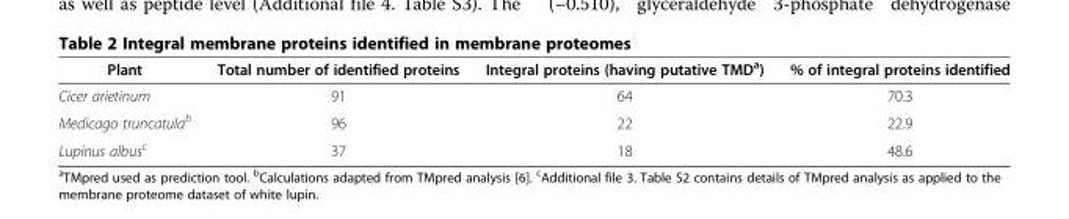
<table><thead><tr><td>Plant</td><td>Total number of identified proteins</td><td>Integral proteins (having putative TMD<sup>a</sup>)</td><td>% of integral proteins identified</td></tr></thead><tbody><tr><td>Cicer arietinum</td><td>91</td><td>64</td><td>70.3</td></tr><tr><td>Medicago truncatula<sup>b</sup></td><td>96</td><td>22</td><td>22.9</td></tr><tr><td>Lupinus albus<sup>c</sup></td><td>37</td><td>18</td><td>48.6</td></tr></tbody></table>